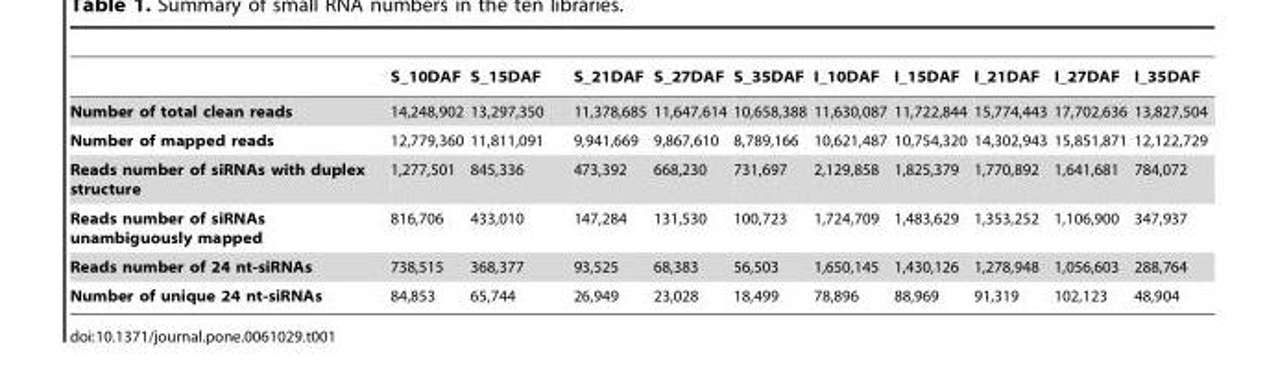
<table><thead><tr><td></td><td>S_10DAF</td><td>S_15DAF</td><td>S_21DAF</td><td>S_27DAF</td><td>S_35DAF</td><td>I_10DAF</td><td>I_15DAF</td><td>I_21DAF</td><td>I_27DAF</td><td>I_35DAF</td></tr></thead><tbody><tr><td>Number of total clean reads</td><td>14,248,902</td><td>13,297,350</td><td>11,378,685</td><td>11,647,614</td><td>10,658,388</td><td>11,630,087</td><td>11,722,844</td><td>15,774,443</td><td>17,702,636</td><td>13,827,504</td></tr><tr><td>Number of mapped reads</td><td>12,779,360</td><td>11,811,091</td><td>9,941,669</td><td>9,867,610</td><td>8,789,166</td><td>10,621,487</td><td>10,754,320</td><td>14,302,943</td><td>15,851,871</td><td>12,122,729</td></tr><tr><td>Reads number of siRNAs with duplex structure</td><td>1,277,501</td><td>845,336</td><td>473,392</td><td>668,230</td><td>731,697</td><td>2,129,858</td><td>1,825,379</td><td>1,770,892</td><td>1,641,681</td><td>784,072</td></tr><tr><td>Reads number of siRNAs unambiguously mapped</td><td>816,706</td><td>433,010</td><td>147,284</td><td>131,530</td><td>100,723</td><td>1,724,709</td><td>1,483,629</td><td>1,353,252</td><td>1,106,900</td><td>347,937</td></tr><tr><td>Reads number of 24 nt-siRNAs</td><td>738,515</td><td>368,377</td><td>93,525</td><td>68,383</td><td>56,503</td><td>1,650,145</td><td>1,430,126</td><td>1,278,948</td><td>1,056,603</td><td>288,764</td></tr><tr><td>Number of unique 24 nt-siRNAs</td><td>84,853</td><td>65,744</td><td>26,949</td><td>23,028</td><td>18,499</td><td>78,896</td><td>88,969</td><td>91,319</td><td>102,123</td><td>48,904</td></tr></tbody></table>